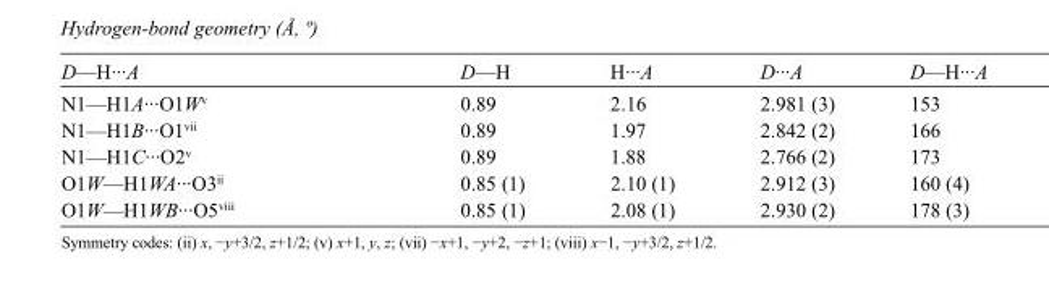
<table><tbody><tr><td>D—H···A</td><td>D—H</td><td>H···A</td><td>D···A</td><td>D—H···A</td></tr><tr><td>N1—H1A···O1W<sup>v</sup></td><td>0.89</td><td>2.16</td><td>2.981 (3)</td><td>153</td></tr><tr><td>N1—H1B···O1<sup>vii</sup></td><td>0.89</td><td>1.97</td><td>2.842 (2)</td><td>166</td></tr><tr><td>N1—H1C···O2<sup>v</sup></td><td>0.89</td><td>1.88</td><td>2.766 (2)</td><td>173</td></tr><tr><td>O1W—H1WA···O3<sup>ii</sup></td><td>0.85 (1)</td><td>2.10 (1)</td><td>2.912 (3)</td><td>160 (4)</td></tr><tr><td>O1W—H1WB···O5<sup>viii</sup></td><td>0.85 (1)</td><td>2.08 (1)</td><td>2.930 (2)</td><td>178 (3)</td></tr></tbody></table>